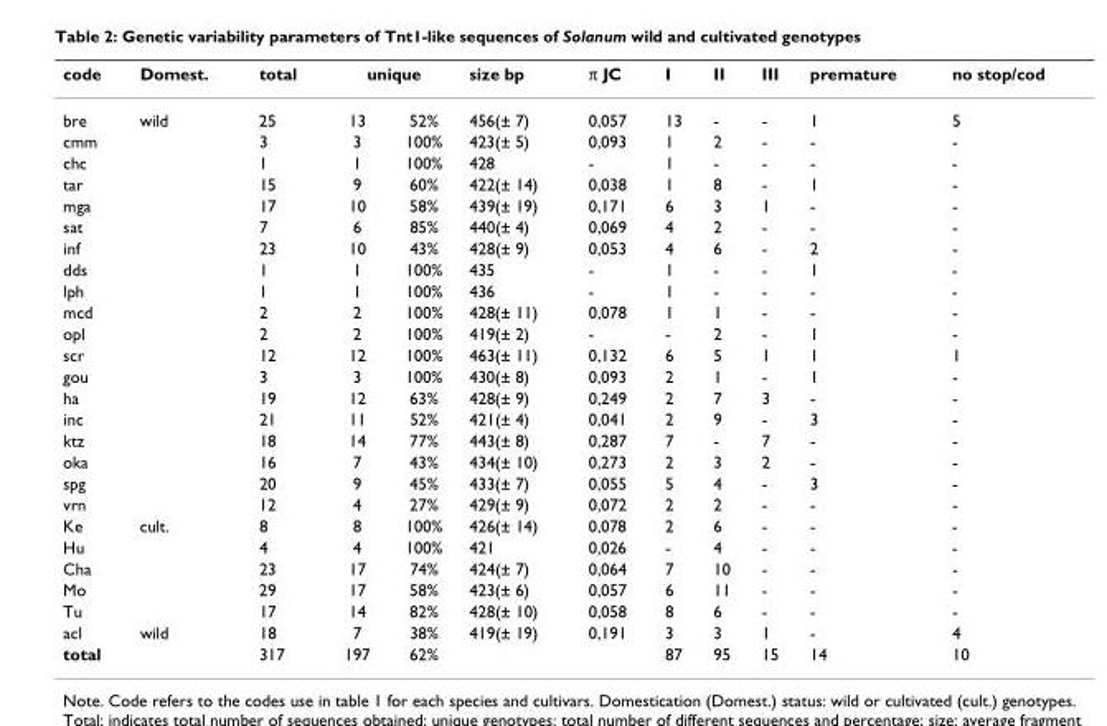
<table><thead><tr><td rowspan="2">code bre</td><td rowspan="2">Domest. wild</td><td rowspan="2">total 25</td><td colspan="2">unique</td><td rowspan="2">size bp 456(± 7)</td><td rowspan="2">π JC 0,057</td><td rowspan="2">I 13</td><td rowspan="2">II -</td><td rowspan="2">III -</td><td rowspan="2">premature 1</td><td rowspan="2">no stop/cod 5</td></tr><tr><td>13</td><td>52%</td></tr></thead><tbody><tr><td>cmm</td><td></td><td>3</td><td>3</td><td>100%</td><td>423(± 5)</td><td>0,093</td><td>1</td><td>2</td><td>-</td><td>-</td><td>-</td></tr><tr><td>chc</td><td></td><td>1</td><td>1</td><td>100%</td><td>428</td><td>-</td><td>1</td><td>-</td><td>-</td><td>-</td><td>-</td></tr><tr><td>tar</td><td></td><td>15</td><td>9</td><td>60%</td><td>422(± 14)</td><td>0,038</td><td>1</td><td>8</td><td>-</td><td>1</td><td>-</td></tr><tr><td>mga</td><td></td><td>17</td><td>10</td><td>58%</td><td>439(± 19)</td><td>0,171</td><td>6</td><td>3</td><td>1</td><td>-</td><td>-</td></tr><tr><td>sat</td><td></td><td>7</td><td>6</td><td>85%</td><td>440(± 4)</td><td>0,069</td><td>4</td><td>2</td><td>-</td><td>-</td><td>-</td></tr><tr><td>inf</td><td></td><td>23</td><td>10</td><td>43%</td><td>428(± 9)</td><td>0,053</td><td>4</td><td>6</td><td>-</td><td>2</td><td>-</td></tr><tr><td>dds</td><td></td><td>1</td><td>1</td><td>100%</td><td>435</td><td>-</td><td>1</td><td>-</td><td>-</td><td>1</td><td>-</td></tr><tr><td>lph</td><td></td><td>1</td><td>1</td><td>100%</td><td>436</td><td>-</td><td>1</td><td>-</td><td>-</td><td>-</td><td>-</td></tr><tr><td>mcd</td><td></td><td>2</td><td>2</td><td>100%</td><td>428(± 11)</td><td>0,078</td><td>1</td><td>1</td><td>-</td><td>-</td><td>-</td></tr><tr><td>opl</td><td></td><td>2</td><td>2</td><td>100%</td><td>419(± 2)</td><td>-</td><td>-</td><td>2</td><td>-</td><td>1</td><td>-</td></tr><tr><td>scr</td><td></td><td>12</td><td>12</td><td>100%</td><td>463(± 11)</td><td>0,132</td><td>6</td><td>5</td><td>1</td><td>1</td><td>1</td></tr><tr><td>gou</td><td></td><td>3</td><td>3</td><td>100%</td><td>430(± 8)</td><td>0,093</td><td>2</td><td>1</td><td>-</td><td>1</td><td>-</td></tr><tr><td>ha</td><td></td><td>19</td><td>12</td><td>63%</td><td>428(± 9)</td><td>0,249</td><td>2</td><td>7</td><td>3</td><td>-</td><td>-</td></tr><tr><td>inc</td><td></td><td>21</td><td>11</td><td>52%</td><td>421(± 4)</td><td>0,041</td><td>2</td><td>9</td><td>-</td><td>3</td><td>-</td></tr><tr><td>ktz</td><td></td><td>18</td><td>14</td><td>77%</td><td>443(± 8)</td><td>0,287</td><td>7</td><td>-</td><td>7</td><td>-</td><td>-</td></tr><tr><td>oka</td><td></td><td>16</td><td>7</td><td>43%</td><td>434(± 10)</td><td>0,273</td><td>2</td><td>3</td><td>2</td><td>-</td><td>-</td></tr><tr><td>spg</td><td></td><td>20</td><td>9</td><td>45%</td><td>433(± 7)</td><td>0,055</td><td>5</td><td>4</td><td>-</td><td>3</td><td>-</td></tr><tr><td>vrn</td><td></td><td>12</td><td>4</td><td>27%</td><td>429(± 9)</td><td>0,072</td><td>2</td><td>2</td><td>-</td><td>-</td><td>-</td></tr><tr><td>Ke</td><td>cult.</td><td>8</td><td>8</td><td>100%</td><td>426(± 14)</td><td>0,078</td><td>2</td><td>6</td><td>-</td><td>-</td><td>-</td></tr><tr><td>Hu</td><td></td><td>4</td><td>4</td><td>100%</td><td>421</td><td>0,026</td><td>-</td><td>4</td><td>-</td><td>-</td><td>-</td></tr><tr><td>Cha</td><td></td><td>23</td><td>17</td><td>74%</td><td>424(± 7)</td><td>0,064</td><td>7</td><td>10</td><td>-</td><td>-</td><td>-</td></tr><tr><td>Mo</td><td></td><td>29</td><td>17</td><td>58%</td><td>423(± 6)</td><td>0,057</td><td>6</td><td>11</td><td>-</td><td>-</td><td>-</td></tr><tr><td>Tu</td><td></td><td>17</td><td>14</td><td>82%</td><td>428(± 10)</td><td>0,058</td><td>8</td><td>6</td><td>-</td><td>-</td><td>-</td></tr><tr><td>acl</td><td>wild</td><td>18</td><td>7</td><td>38%</td><td>419(± 19)</td><td>0,191</td><td>3</td><td>3</td><td>1</td><td>-</td><td>4</td></tr><tr><td>total</td><td></td><td>317</td><td>197</td><td>62%</td><td></td><td></td><td>87</td><td>95</td><td>15</td><td>14</td><td>10</td></tr></tbody></table>